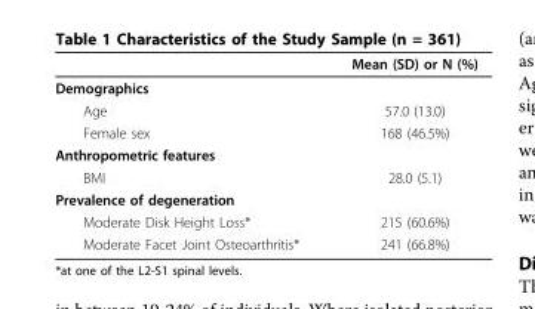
<table><thead><tr><td></td><td>Mean (SD) or N (%)</td></tr></thead><tbody><tr><td colspan="2">Demographics</td></tr><tr><td>Age</td><td>57.0 (13.0)</td></tr><tr><td>Female sex</td><td>168 (46.5%)</td></tr><tr><td colspan="2">Anthropometric features</td></tr><tr><td>BMI</td><td>28.0 (5.1)</td></tr><tr><td colspan="2">Prevalence of degeneration</td></tr><tr><td>Moderate Disk Height Loss*</td><td>215 (60.6%)</td></tr><tr><td>Moderate Facet Joint Osteoarthritis*</td><td>241 (66.8%)</td></tr></tbody></table>